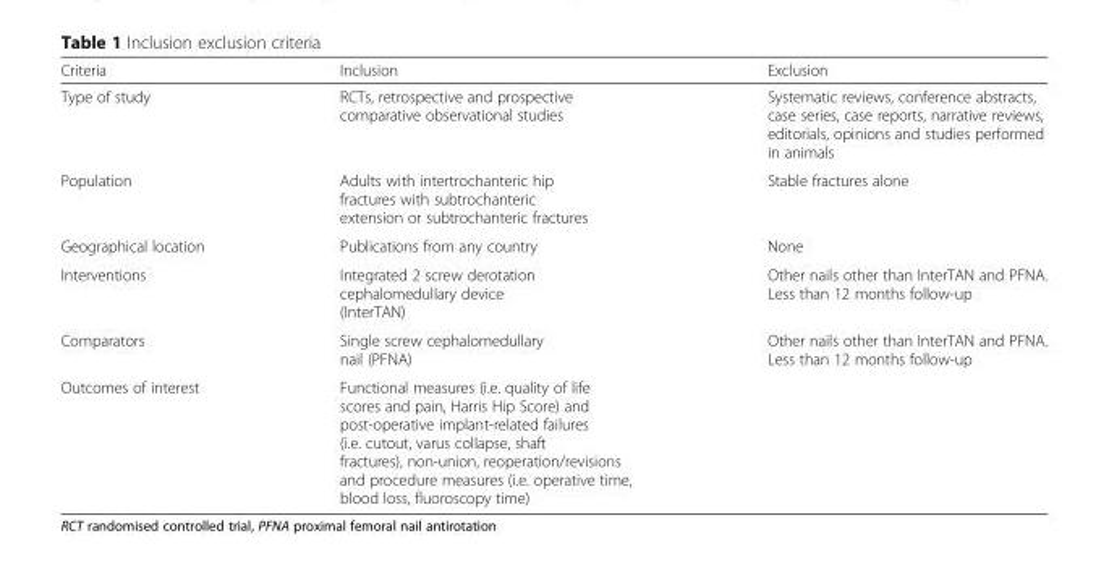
<table><thead><tr><td>Criteria</td><td>Inclusion</td><td>Exclusion</td></tr></thead><tbody><tr><td>Type of study</td><td>RCTs, retrospective and prospective comparative observational studies</td><td>Systematic reviews, conference abstracts, case series, case reports, narrative reviews, editorials, opinions and studies performed in animals</td></tr><tr><td>Population</td><td>Adults with intertrochanteric hip fractures with subtrochanteric extension or subtrochanteric fractures</td><td>Stable fractures alone</td></tr><tr><td>Geographical location</td><td>Publications from any country</td><td>None</td></tr><tr><td>Interventions</td><td>Integrated 2 screw derotation cephalomedullary device (InterTAN)</td><td>Other nails other than InterTAN and PFNA. Less than 12 months follow-up</td></tr><tr><td>Comparators</td><td>Single screw cephalomedullary nail (PFNA)</td><td>Other nails other than InterTAN and PFNA. Less than 12 months follow-up</td></tr><tr><td>Outcomes of interest</td><td>Functional measures (i.e. quality of life scores and pain, Harris Hip Score) and post-operative implant-related failures (i.e. cutout, varus collapse, shaft fractures), non-union, reoperation/revisions and procedure measures (i.e. operative time, blood loss, fluoroscopy time)</td><td></td></tr></tbody></table>